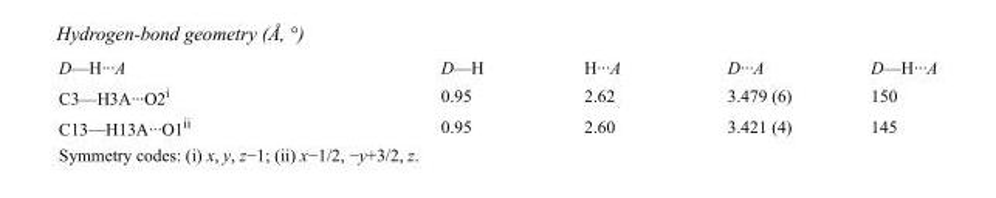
<table><tbody><tr><td>D—H···A</td><td>D—H</td><td>H···A</td><td>D···A</td><td>D—H···A</td></tr><tr><td>C3—H3A···O2<sup>i</sup></td><td>0.95</td><td>2.62</td><td>3.479 (6)</td><td>150</td></tr><tr><td>C13—H13A···O1<sup>ii</sup></td><td>0.95</td><td>2.60</td><td>3.421 (4)</td><td>145</td></tr></tbody></table>